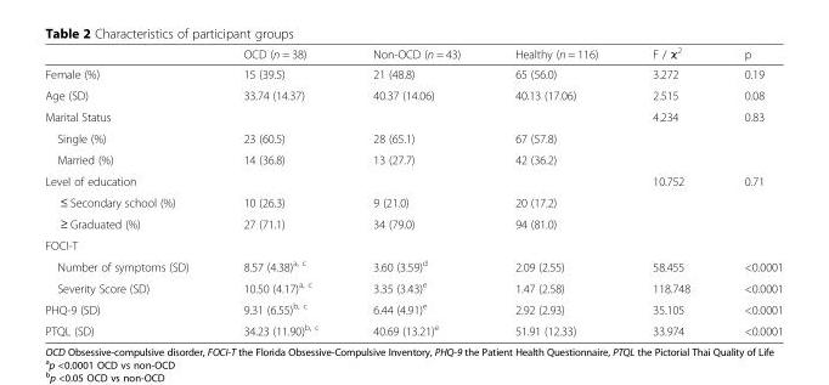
<table><thead><tr><td></td><td>OCD (n = 38)</td><td>Non-OCD (n = 43)</td><td>Healthy (n = 116)</td><td>F / ϰ<sup>2</sup></td><td>p</td></tr></thead><tbody><tr><td>Female (%)</td><td>15 (39.5)</td><td>21 (48.8)</td><td>65 (56.0)</td><td>3.272</td><td>0.19</td></tr><tr><td>Age (SD)</td><td>33.74 (14.37)</td><td>40.37 (14.06)</td><td>40.13 (17.06)</td><td>2.515</td><td>0.08</td></tr><tr><td>Marital Status</td><td></td><td></td><td></td><td>4.234</td><td>0.83</td></tr><tr><td>Single (%)</td><td>23 (60.5)</td><td>28 (65.1)</td><td>67 (57.8)</td><td></td><td></td></tr><tr><td>Married (%)</td><td>14 (36.8)</td><td>13 (27.7)</td><td>42 (36.2)</td><td></td><td></td></tr><tr><td>Level of education</td><td></td><td></td><td></td><td>10.752</td><td>0.71</td></tr><tr><td>≤ Secondary school (%)</td><td>10 (26.3)</td><td>9 (21.0)</td><td>20 (17.2)</td><td></td><td></td></tr><tr><td>≥ Graduated (%)</td><td>27 (71.1)</td><td>34 (79.0)</td><td>94 (81.0)</td><td></td><td></td></tr><tr><td colspan="6">FOCI-T</td></tr><tr><td>Number of symptoms (SD)</td><td>8.57 (4.38)<sup>a, c</sup></td><td>3.60 (3.59)<sup>d</sup></td><td>2.09 (2.55)</td><td>58.455</td><td>&lt;0.0001</td></tr><tr><td>Severity Score (SD)</td><td>10.50 (4.17)<sup>a, c</sup></td><td>3.35 (3.43)<sup>e</sup></td><td>1.47 (2.58)</td><td>118.748</td><td>&lt;0.0001</td></tr><tr><td>PHQ-9 (SD)</td><td>9.31 (6.55)<sup>b, c</sup></td><td>6.44 (4.91)<sup>e</sup></td><td>2.92 (2.93)</td><td>35.105</td><td>&lt;0.0001</td></tr><tr><td>PTQL (SD)</td><td>34.23 (11.90)<sup>b, c</sup></td><td>40.69 (13.21)<sup>e</sup></td><td>51.91 (12.33)</td><td>33.974</td><td>&lt;0.0001</td></tr></tbody></table>